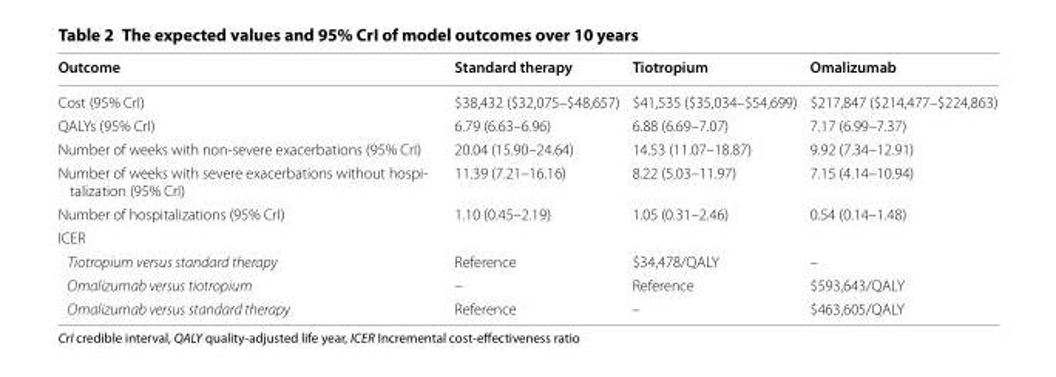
<table><thead><tr><td>Outcome</td><td>Standard therapy</td><td>Tiotropium</td><td>Omalizumab</td></tr></thead><tbody><tr><td>Cost (95% CrI)</td><td>$38,432 ($32,075–$48,657)</td><td>$41,535 ($35,034–$54,699)</td><td>$217,847 ($214,477–$224,863)</td></tr><tr><td>QALYs (95% CrI)</td><td>6.79 (6.63–6.96)</td><td>6.88 (6.69–7.07)</td><td>7.17 (6.99–7.37)</td></tr><tr><td>Number of weeks with non-severe exacerbations (95% CrI)</td><td>20.04 (15.90–24.64)</td><td>14.53 (11.07–18.87)</td><td>9.92 (7.34–12.91)</td></tr><tr><td>Number of weeks with severe exacerbations without hospi- talization (95% CrI)</td><td>11.39 (7.21–16.16)</td><td>8.22 (5.03–11.97)</td><td>7.15 (4.14–10.94)</td></tr><tr><td>Number of hospitalizations (95% CrI)</td><td>1.10 (0.45–2.19)</td><td>1.05 (0.31–2.46)</td><td>0.54 (0.14–1.48)</td></tr><tr><td colspan="4">ICER</td></tr><tr><td>Tiotropium versus standard therapy</td><td>Reference</td><td>$34,478/QALY</td><td>–</td></tr><tr><td>Omalizumab versus tiotropium</td><td>–</td><td>Reference</td><td>$593,643/QALY</td></tr><tr><td>Omalizumab versus standard therapy</td><td>Reference</td><td>–</td><td>$463,605/QALY</td></tr></tbody></table>